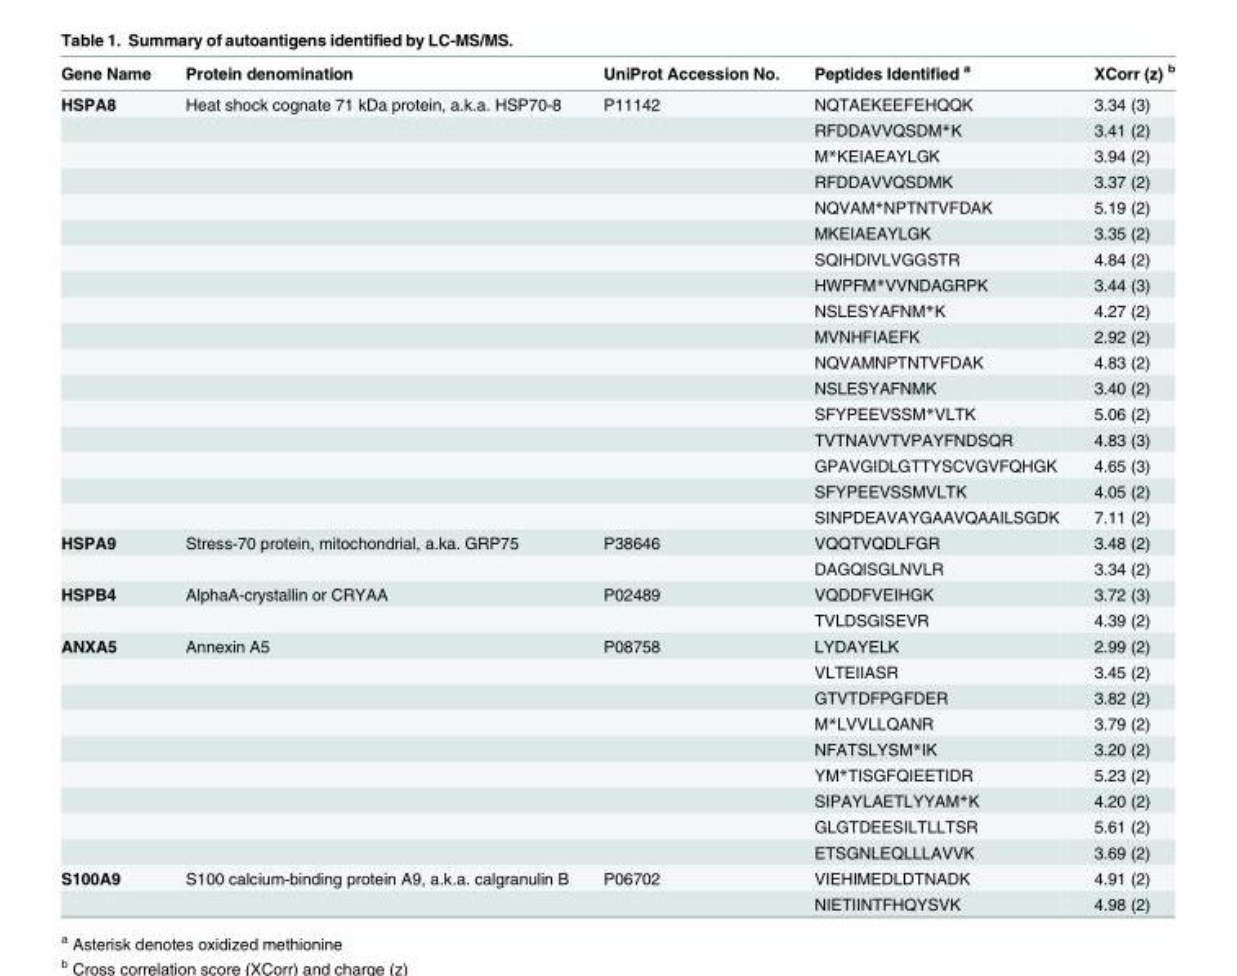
<table><thead><tr><td>Gene Name</td><td>Protein denomination</td><td>UniProt Accession No.</td><td>Peptides Identified <sup>a</sup></td><td>XCorr (z) <sup>b</sup></td></tr></thead><tbody><tr><td rowspan="17">HSPA8</td><td>Heat shock cognate 71 kDa protein, a.k.a. HSP70-8</td><td>P11142</td><td>NQTAEKEEFEHQQK</td><td>3.34 (3)</td></tr><tr><td></td><td></td><td>RFDDAVVQSDM*K</td><td>3.41 (2)</td></tr><tr><td></td><td></td><td>M*KEIAEAYLGK</td><td>3.94 (2)</td></tr><tr><td></td><td></td><td>RFDDAVVQSDMK</td><td>3.37 (2)</td></tr><tr><td></td><td></td><td>NQVAM*NPTNTVFDAK</td><td>5.19 (2)</td></tr><tr><td></td><td></td><td>MKEIAEAYLGK</td><td>3.35 (2)</td></tr><tr><td></td><td></td><td>SQIHDIVLVGGSTR</td><td>4.84 (2)</td></tr><tr><td></td><td></td><td>HWPFM*VVNDAGRPK</td><td>3.44 (3)</td></tr><tr><td></td><td></td><td>NSLESYAFNM*K</td><td>4.27 (2)</td></tr><tr><td></td><td></td><td>MVNHFIAEFK</td><td>2.92 (2)</td></tr><tr><td></td><td></td><td>NQVAMNPTNTVFDAK</td><td>4.83 (2)</td></tr><tr><td></td><td></td><td>NSLESYAFNMK</td><td>3.40 (2)</td></tr><tr><td></td><td></td><td>SFYPEEVSSM*VLTK</td><td>5.06 (2)</td></tr><tr><td></td><td></td><td>TVTNAVVTVPAYFNDSQR</td><td>4.83 (3)</td></tr><tr><td></td><td></td><td>GPAVGIDLGTTYSCVGVFQHGK</td><td>4.65 (3)</td></tr><tr><td></td><td></td><td>SFYPEEVSSMVLTK</td><td>4.05 (2)</td></tr><tr><td></td><td></td><td>SINPDEAVAYGAAVQAAILSGDK</td><td>7.11 (2)</td></tr><tr><td rowspan="2">HSPA9</td><td>Stress-70 protein, mitochondrial, a.ka. GRP75</td><td>P38646</td><td>VQQTVQDLFGR</td><td>3.48 (2)</td></tr><tr><td></td><td></td><td>DAGQISGLNVLR</td><td>3.34 (2)</td></tr><tr><td rowspan="2">HSPB4</td><td>AlphaA-crystallin or CRYAA</td><td>P02489</td><td>VQDDFVEIHGK</td><td>3.72 (3)</td></tr><tr><td></td><td></td><td>TVLDSGISEVR</td><td>4.39 (2)</td></tr><tr><td rowspan="9">ANXA5</td><td>Annexin A5</td><td>P08758</td><td>LYDAYELK</td><td>2.99 (2)</td></tr><tr><td></td><td></td><td>VLTEIIASR</td><td>3.45 (2)</td></tr><tr><td></td><td></td><td>GTVTDFPGFDER</td><td>3.82 (2)</td></tr><tr><td></td><td></td><td>M*LVVLLQANR</td><td>3.79 (2)</td></tr><tr><td></td><td></td><td>NFATSLYSM*IK</td><td>3.20 (2)</td></tr><tr><td></td><td></td><td>YM*TISGFQIEETIDR</td><td>5.23 (2)</td></tr><tr><td></td><td></td><td>SIPAYLAETLYYAM*K</td><td>4.20 (2)</td></tr><tr><td></td><td></td><td>GLGTDEESILTLLTSR</td><td>5.61 (2)</td></tr><tr><td></td><td></td><td>ETSGNLEQLLLAVVK</td><td>3.69 (2)</td></tr><tr><td rowspan="2">S100A9</td><td>S100 calcium-binding protein A9, a.k.a. calgranulin B</td><td>P06702</td><td>VIEHIMEDLDTNADK</td><td>4.91 (2)</td></tr><tr><td></td><td></td><td>NIETIINTFHQYSVK</td><td>4.98 (2)</td></tr></tbody></table>